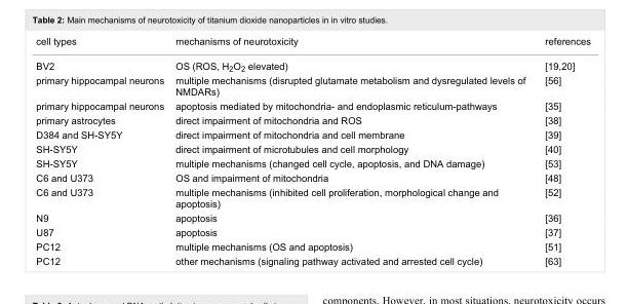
<table><tbody><tr><td>cell types</td><td>mechanisms of neurotoxicity</td><td>references</td></tr><tr><td>BV2</td><td>OS (ROS, H<sub>2</sub>O<sub>2</sub> elevated)</td><td>[19–20]</td></tr><tr><td>primary hippocampal neurons</td><td>multiple mechanisms (disrupted glutamate metabolism and dysregulated levels of NMDARs)</td><td>[56]</td></tr><tr><td>primary hippocampal neurons</td><td>apoptosis mediated by mitochondria- and endoplasmic reticulum-pathways</td><td>[35]</td></tr><tr><td>primary astrocytes</td><td>direct impairment of mitochondria and ROS</td><td>[38]</td></tr><tr><td>D384 and SH-SY5Y</td><td>direct impairment of mitochondria and cell membrane</td><td>[39]</td></tr><tr><td>SH-SY5Y</td><td>direct impairment of microtubules and cell morphology</td><td>[40]</td></tr><tr><td>SH-SY5Y</td><td>multiple mechanisms (changed cell cycle, apoptosis, and DNA damage)</td><td>[53]</td></tr><tr><td>C6 and U373</td><td>OS and impairment of mitochondria</td><td>[48]</td></tr><tr><td>C6 and U373</td><td>multiple mechanisms (inhibited cell proliferation, morphological change and apoptosis)</td><td>[52]</td></tr><tr><td>N9</td><td>apoptosis</td><td>[36]</td></tr><tr><td>U87</td><td>apoptosis</td><td>[37]</td></tr><tr><td>PC12</td><td>multiple mechanisms (OS and apoptosis)</td><td>[51]</td></tr><tr><td>PC12</td><td>other mechanisms (signaling pathway activated and arrested cell cycle)</td><td>[63]</td></tr></tbody></table>